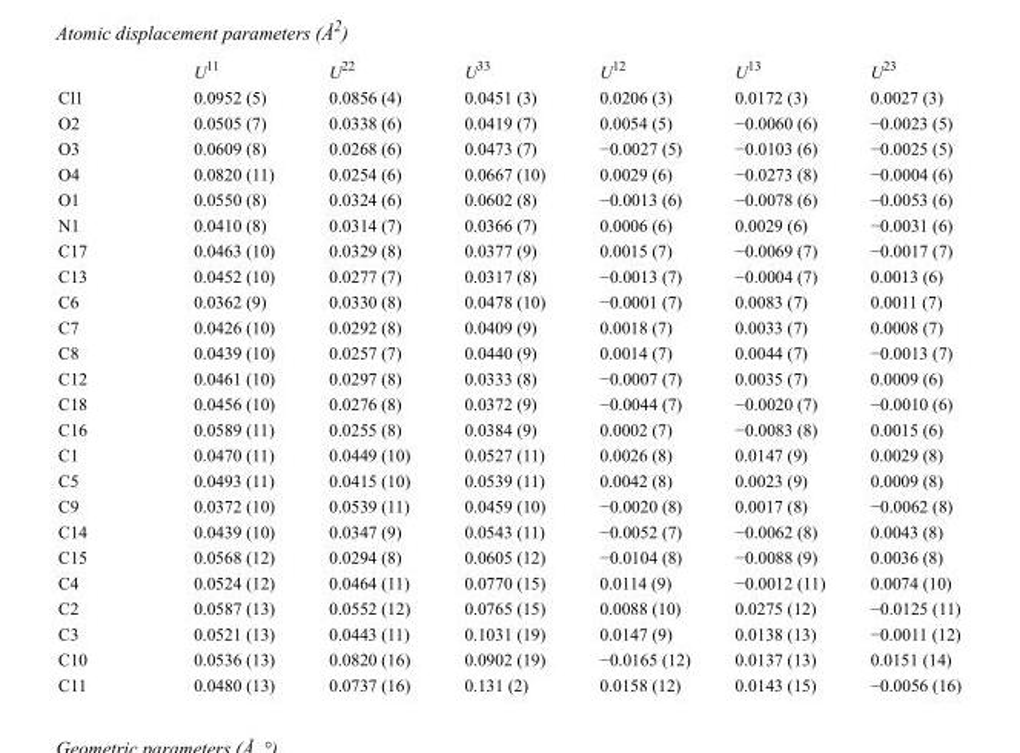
<table><thead><tr><td></td><td>U<sup>11</sup></td><td>U<sup>22</sup></td><td>U<sup>33</sup></td><td>U<sup>12</sup></td><td>U<sup>13</sup></td><td>U<sup>23</sup></td></tr></thead><tbody><tr><td>Cl1</td><td>0.0952 (5)</td><td>0.0856 (4)</td><td>0.0451 (3)</td><td>0.0206 (3)</td><td>0.0172 (3)</td><td>0.0027 (3)</td></tr><tr><td>O2</td><td>0.0505 (7)</td><td>0.0338 (6)</td><td>0.0419 (7)</td><td>0.0054 (5)</td><td>−0.0060 (6)</td><td>−0.0023 (5)</td></tr><tr><td>O3</td><td>0.0609 (8)</td><td>0.0268 (6)</td><td>0.0473 (7)</td><td>−0.0027 (5)</td><td>−0.0103 (6)</td><td>−0.0025 (5)</td></tr><tr><td>O4</td><td>0.0820 (11)</td><td>0.0254 (6)</td><td>0.0667 (10)</td><td>0.0029 (6)</td><td>−0.0273 (8)</td><td>−0.0004 (6)</td></tr><tr><td>O1</td><td>0.0550 (8)</td><td>0.0324 (6)</td><td>0.0602 (8)</td><td>−0.0013 (6)</td><td>−0.0078 (6)</td><td>−0.0053 (6)</td></tr><tr><td>N1</td><td>0.0410 (8)</td><td>0.0314 (7)</td><td>0.0366 (7)</td><td>0.0006 (6)</td><td>0.0029 (6)</td><td>−0.0031 (6)</td></tr><tr><td>C17</td><td>0.0463 (10)</td><td>0.0329 (8)</td><td>0.0377 (9)</td><td>0.0015 (7)</td><td>−0.0069 (7)</td><td>−0.0017 (7)</td></tr><tr><td>C13</td><td>0.0452 (10)</td><td>0.0277 (7)</td><td>0.0317 (8)</td><td>−0.0013 (7)</td><td>−0.0004 (7)</td><td>0.0013 (6)</td></tr><tr><td>C6</td><td>0.0362 (9)</td><td>0.0330 (8)</td><td>0.0478 (10)</td><td>−0.0001 (7)</td><td>0.0083 (7)</td><td>0.0011 (7)</td></tr><tr><td>C7</td><td>0.0426 (10)</td><td>0.0292 (8)</td><td>0.0409 (9)</td><td>0.0018 (7)</td><td>0.0033 (7)</td><td>0.0008 (7)</td></tr><tr><td>C8</td><td>0.0439 (10)</td><td>0.0257 (7)</td><td>0.0440 (9)</td><td>0.0014 (7)</td><td>0.0044 (7)</td><td>−0.0013 (7)</td></tr><tr><td>C12</td><td>0.0461 (10)</td><td>0.0297 (8)</td><td>0.0333 (8)</td><td>−0.0007 (7)</td><td>0.0035 (7)</td><td>0.0009 (6)</td></tr><tr><td>C18</td><td>0.0456 (10)</td><td>0.0276 (8)</td><td>0.0372 (9)</td><td>−0.0044 (7)</td><td>−0.0020 (7)</td><td>−0.0010 (6)</td></tr><tr><td>C16</td><td>0.0589 (11)</td><td>0.0255 (8)</td><td>0.0384 (9)</td><td>0.0002 (7)</td><td>−0.0083 (8)</td><td>0.0015 (6)</td></tr><tr><td>C1</td><td>0.0470 (11)</td><td>0.0449 (10)</td><td>0.0527 (11)</td><td>0.0026 (8)</td><td>0.0147 (9)</td><td>0.0029 (8)</td></tr><tr><td>C5</td><td>0.0493 (11)</td><td>0.0415 (10)</td><td>0.0539 (11)</td><td>0.0042 (8)</td><td>0.0023 (9)</td><td>0.0009 (8)</td></tr><tr><td>C9</td><td>0.0372 (10)</td><td>0.0539 (11)</td><td>0.0459 (10)</td><td>−0.0020 (8)</td><td>0.0017 (8)</td><td>−0.0062 (8)</td></tr><tr><td>C14</td><td>0.0439 (10)</td><td>0.0347 (9)</td><td>0.0543 (11)</td><td>−0.0052 (7)</td><td>−0.0062 (8)</td><td>0.0043 (8)</td></tr><tr><td>C15</td><td>0.0568 (12)</td><td>0.0294 (8)</td><td>0.0605 (12)</td><td>−0.0104 (8)</td><td>−0.0088 (9)</td><td>0.0036 (8)</td></tr><tr><td>C4</td><td>0.0524 (12)</td><td>0.0464 (11)</td><td>0.0770 (15)</td><td>0.0114 (9)</td><td>−0.0012 (11)</td><td>0.0074 (10)</td></tr><tr><td>C2</td><td>0.0587 (13)</td><td>0.0552 (12)</td><td>0.0765 (15)</td><td>0.0088 (10)</td><td>0.0275 (12)</td><td>−0.0125 (11)</td></tr><tr><td>C3</td><td>0.0521 (13)</td><td>0.0443 (11)</td><td>0.1031 (19)</td><td>0.0147 (9)</td><td>0.0138 (13)</td><td>−0.0011 (12)</td></tr><tr><td>C10</td><td>0.0536 (13)</td><td>0.0820 (16)</td><td>0.0902 (19)</td><td>−0.0165 (12)</td><td>0.0137 (13)</td><td>0.0151 (14)</td></tr><tr><td>C11</td><td>0.0480 (13)</td><td>0.0737 (16)</td><td>0.131 (2)</td><td>0.0158 (12)</td><td>0.0143 (15)</td><td>−0.0056 (16)</td></tr></tbody></table>